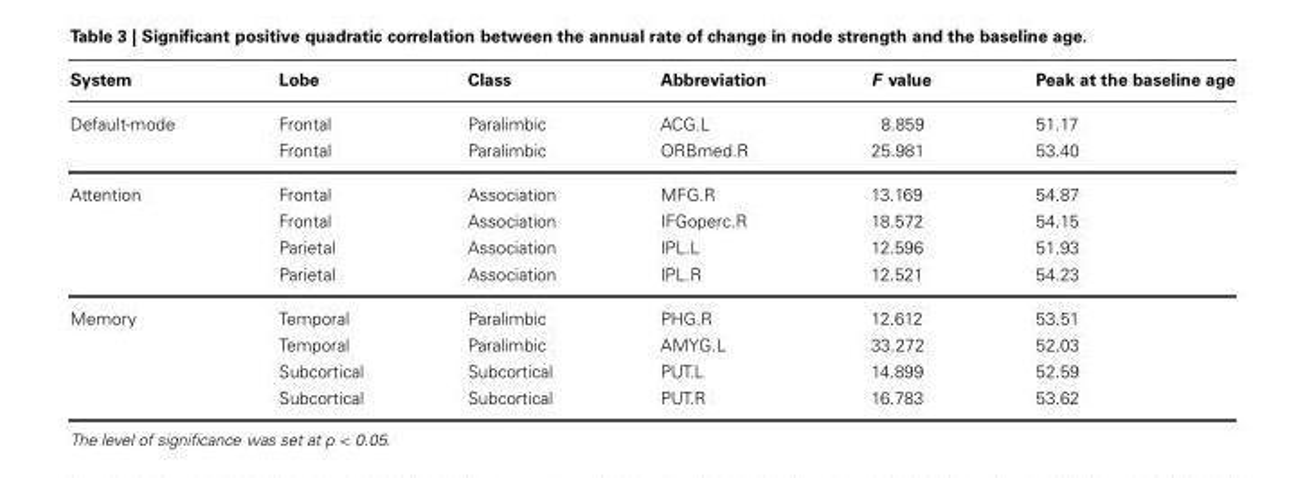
<table><thead><tr><td>System</td><td>Lobe</td><td>Class</td><td>Abbreviation</td><td>F value</td><td>Peak at the baseline age</td></tr></thead><tbody><tr><td rowspan="2">Default-mode</td><td>Frontal</td><td>Paralimbic</td><td>ACG.L</td><td>8.859</td><td>51.17</td></tr><tr><td>Frontal</td><td>Paralimbic</td><td>ORBmed.R</td><td>25.981</td><td>53.40</td></tr><tr><td rowspan="4">Attention</td><td>Frontal</td><td>Association</td><td>MFG.R</td><td>13.169</td><td>54.87</td></tr><tr><td>Frontal</td><td>Association</td><td>IFGoperc.R</td><td>18.572</td><td>54.15</td></tr><tr><td>Parietal</td><td>Association</td><td>IPL.L</td><td>12.596</td><td>51.93</td></tr><tr><td>Parietal</td><td>Association</td><td>IPL.R</td><td>12.521</td><td>54.23</td></tr><tr><td rowspan="4">Memory</td><td>Temporal</td><td>Paralimbic</td><td>PHG.R</td><td>12.612</td><td>53.51</td></tr><tr><td>Temporal</td><td>Paralimbic</td><td>AMYG.L</td><td>33.272</td><td>52.03</td></tr><tr><td>Subcortical</td><td>Subcortical</td><td>PUT.L</td><td>14.899</td><td>52.59</td></tr><tr><td>Subcortical</td><td>Subcortical</td><td>PUT.R</td><td>16.783</td><td>53.62</td></tr></tbody></table>